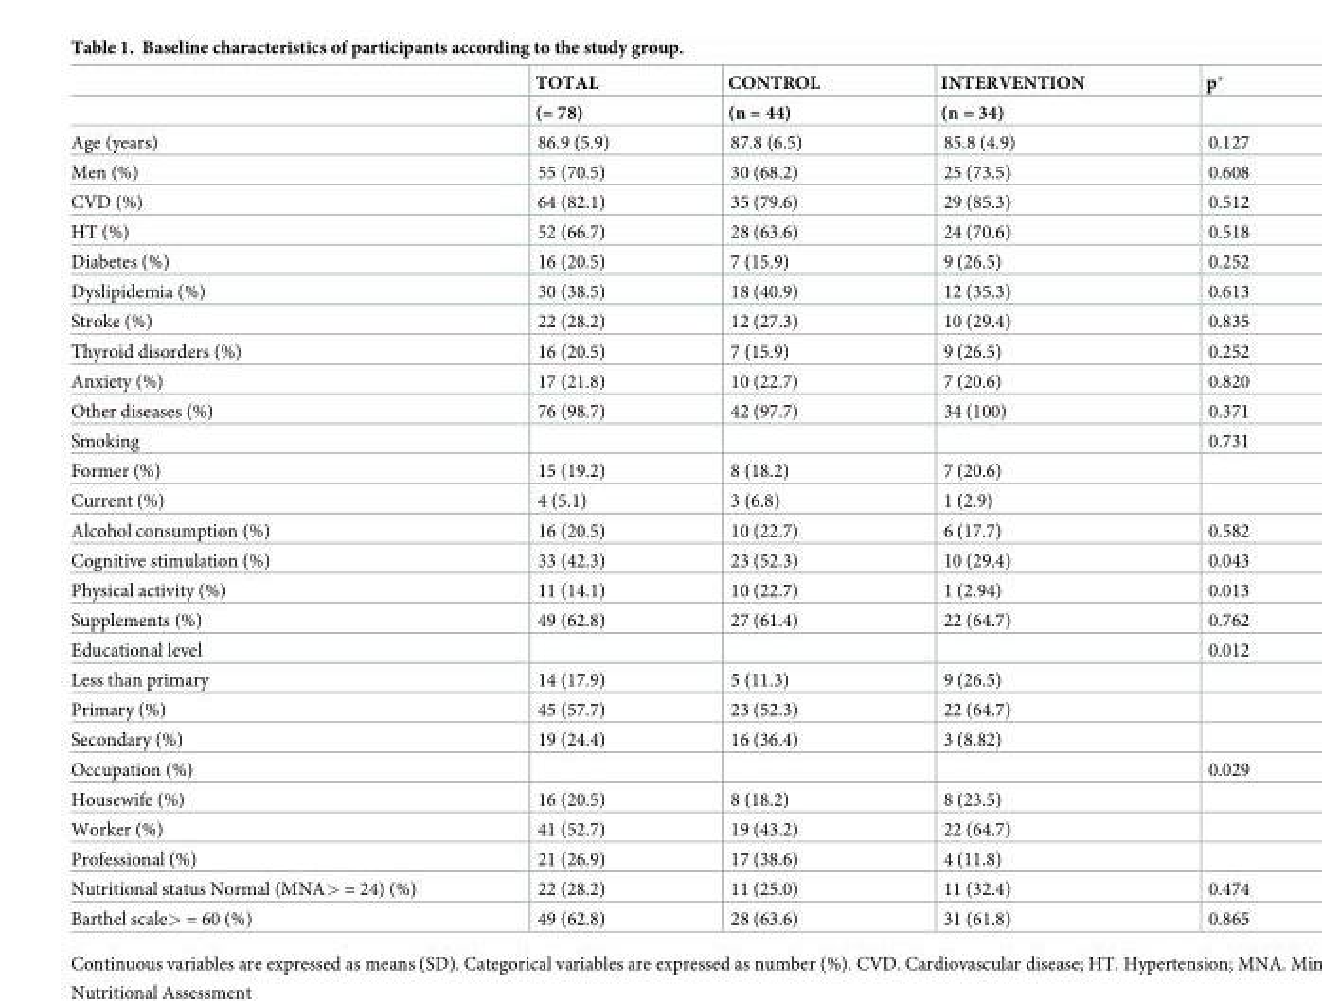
<table><thead><tr><td rowspan="2"></td><td rowspan="2">TOTAL (= 78)</td><td rowspan="2">CONTROL (n = 44)</td><td rowspan="2">INTERVENTION (n = 34)</td><td rowspan="2">p*</td></tr><tr></tr></thead><tbody><tr><td>Age (years)</td><td>86.9 (5.9)</td><td>87.8 (6.5)</td><td>85.8 (4.9)</td><td>0.127</td></tr><tr><td>Men (%)</td><td>55 (70.5)</td><td>30 (68.2)</td><td>25 (73.5)</td><td>0.608</td></tr><tr><td>CVD (%)</td><td>64 (82.1)</td><td>35 (79.6)</td><td>29 (85.3)</td><td>0.512</td></tr><tr><td>HT (%)</td><td>52 (66.7)</td><td>28 (63.6)</td><td>24 (70.6)</td><td>0.518</td></tr><tr><td>Diabetes (%)</td><td>16 (20.5)</td><td>7 (15.9)</td><td>9 (26.5)</td><td>0.252</td></tr><tr><td>Dyslipidemia (%)</td><td>30 (38.5)</td><td>18 (40.9)</td><td>12 (35.3)</td><td>0.613</td></tr><tr><td>Stroke (%)</td><td>22 (28.2)</td><td>12 (27.3)</td><td>10 (29.4)</td><td>0.835</td></tr><tr><td>Thyroid disorders (%)</td><td>16 (20.5)</td><td>7 (15.9)</td><td>9 (26.5)</td><td>0.252</td></tr><tr><td>Anxiety (%)</td><td>17 (21.8)</td><td>10 (22.7)</td><td>7 (20.6)</td><td>0.820</td></tr><tr><td>Other diseases (%)</td><td>76 (98.7)</td><td>42 (97.7)</td><td>34 (100)</td><td>0.371</td></tr><tr><td>Smoking</td><td></td><td></td><td></td><td>0.731</td></tr><tr><td>Former (%)</td><td>15 (19.2)</td><td>8 (18.2)</td><td>7 (20.6)</td><td></td></tr><tr><td>Current (%)</td><td>4 (5.1)</td><td>3 (6.8)</td><td>1 (2.9)</td><td></td></tr><tr><td>Alcohol consumption (%)</td><td>16 (20.5)</td><td>10 (22.7)</td><td>6 (17.7)</td><td>0.582</td></tr><tr><td>Cognitive stimulation (%)</td><td>33 (42.3)</td><td>23 (52.3)</td><td>10 (29.4)</td><td>0.043</td></tr><tr><td>Physical activity (%)</td><td>11 (14.1)</td><td>10 (22.7)</td><td>1 (2.94)</td><td>0.013</td></tr><tr><td>Supplements (%)</td><td>49 (62.8)</td><td>27 (61.4)</td><td>22 (64.7)</td><td>0.762</td></tr><tr><td>Educational level</td><td></td><td></td><td></td><td>0.012</td></tr><tr><td>Less than primary</td><td>14 (17.9)</td><td>5 (11.3)</td><td>9 (26.5)</td><td></td></tr><tr><td>Primary (%)</td><td>45 (57.7)</td><td>23 (52.3)</td><td>22 (64.7)</td><td></td></tr><tr><td>Secondary (%)</td><td>19 (24.4)</td><td>16 (36.4)</td><td>3 (8.82)</td><td></td></tr><tr><td>Occupation (%)</td><td></td><td></td><td></td><td>0.029</td></tr><tr><td>Housewife (%)</td><td>16 (20.5)</td><td>8 (18.2)</td><td>8 (23.5)</td><td></td></tr><tr><td>Worker (%)</td><td>41 (52.7)</td><td>19 (43.2)</td><td>22 (64.7)</td><td></td></tr><tr><td>Professional (%)</td><td>21 (26.9)</td><td>17 (38.6)</td><td>4 (11.8)</td><td></td></tr><tr><td>Nutritional status Normal (MNA&gt; = 24) (%)</td><td>22 (28.2)</td><td>11 (25.0)</td><td>11 (32.4)</td><td>0.474</td></tr><tr><td>Barthel scale&gt; = 60 (%)</td><td>49 (62.8)</td><td>28 (63.6)</td><td>31 (61.8)</td><td>0.865</td></tr></tbody></table>